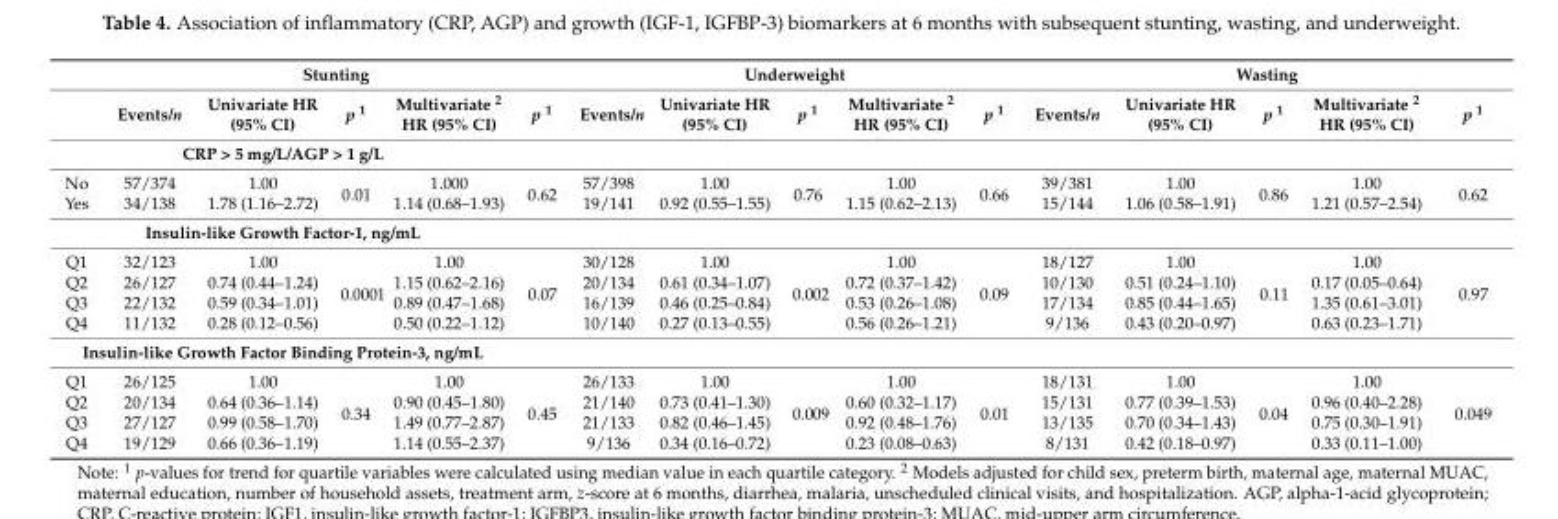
<table><thead><tr><td rowspan="2"></td><td colspan="5">Stunting</td><td colspan="5">Underweight</td><td colspan="5">Wasting</td></tr><tr><td>Events/n</td><td>Univariate HR (95% CI)</td><td>p <sup>1</sup></td><td>Multivariate <sup>2</sup> HR (95% CI)</td><td>p <sup>1</sup></td><td>Events/n</td><td>Univariate HR (95% CI)</td><td>p <sup>1</sup></td><td>Multivariate <sup>2</sup> HR (95% CI)</td><td>p <sup>1</sup></td><td>Events/n</td><td>Univariate HR (95% CI)</td><td>p <sup>1</sup></td><td>Multivariate <sup>2</sup> HR (95% CI)</td><td>p <sup>1</sup></td></tr></thead><tbody><tr><td colspan="16">CRP &gt; 5 mg/L/AGP &gt; 1 g/L</td></tr><tr><td>No</td><td>57/374</td><td>1.00</td><td rowspan="2">0.01</td><td>1.000</td><td rowspan="2">0.62</td><td>57/398</td><td>1.00</td><td rowspan="2">0.76</td><td>1.00</td><td rowspan="2">0.66</td><td>39/381</td><td>1.00</td><td rowspan="2">0.86</td><td>1.00</td><td rowspan="2">0.62</td></tr><tr><td>Yes</td><td>34/138</td><td>1.78 (1.16–2.72)</td><td>1.14 (0.68–1.93)</td><td>19/141</td><td>0.92 (0.55–1.55)</td><td>1.15 (0.62–2.13)</td><td>15/144</td><td>1.06 (0.58–1.91)</td><td>1.21 (0.57–2.54)</td></tr><tr><td colspan="16">Insulin-like Growth Factor-1, ng/mL</td></tr><tr><td>Q1</td><td>32/123</td><td>1.00</td><td rowspan="4">0.0001</td><td>1.00</td><td rowspan="4">0.07</td><td>30/128</td><td>1.00</td><td rowspan="4">0.002</td><td>1.00</td><td rowspan="4">0.09</td><td>18/127</td><td>1.00</td><td rowspan="4">0.11</td><td>1.00</td><td rowspan="4">0.97</td></tr><tr><td>Q2</td><td>26/127</td><td>0.74 (0.44–1.24)</td><td>1.15 (0.62–2.16)</td><td>20/134</td><td>0.61 (0.34–1.07)</td><td>0.72 (0.37–1.42)</td><td>10/130</td><td>0.51 (0.24–1.10)</td><td>0.17 (0.05–0.64)</td></tr><tr><td>Q3</td><td>22/132</td><td>0.59 (0.34–1.01)</td><td>0.89 (0.47–1.68)</td><td>16/139</td><td>0.46 (0.25–0.84)</td><td>0.53 (0.26–1.08)</td><td>17/134</td><td>0.85 (0.44–1.65)</td><td>1.35 (0.61–3.01)</td></tr><tr><td>Q4</td><td>11/132</td><td>0.28 (0.12–0.56)</td><td>0.50 (0.22–1.12)</td><td>10/140</td><td>0.27 (0.13–0.55)</td><td>0.56 (0.26–1.21)</td><td>9/136</td><td>0.43 (0.20–0.97)</td><td>0.63 (0.23–1.71)</td></tr><tr><td colspan="16">Insulin-like Growth Factor Binding Protein-3, ng/mL</td></tr><tr><td>Q1</td><td>26/125</td><td>1.00</td><td rowspan="4">0.34</td><td>1.00</td><td rowspan="4">0.45</td><td>26/133</td><td>1.00</td><td rowspan="4">0.009</td><td>1.00</td><td rowspan="4">0.01</td><td>18/131</td><td>1.00</td><td rowspan="4">0.04</td><td>1.00</td><td rowspan="4">0.049</td></tr><tr><td>Q2</td><td>20/134</td><td>0.64 (0.36–1.14)</td><td>0.90 (0.45–1.80)</td><td>21/140</td><td>0.73 (0.41–1.30)</td><td>0.60 (0.32–1.17)</td><td>15/131</td><td>0.77 (0.39–1.53)</td><td>0.96 (0.40–2.28)</td></tr><tr><td>Q3</td><td>27/127</td><td>0.99 (0.58–1.70)</td><td>1.49 (0.77–2.87)</td><td>21/133</td><td>0.82 (0.46–1.45)</td><td>0.92 (0.48–1.76)</td><td>13/135</td><td>0.70 (0.34–1.43)</td><td>0.75 (0.30–1.91)</td></tr><tr><td>Q4</td><td>19/129</td><td>0.66 (0.36–1.19)</td><td>1.14 (0.55–2.37)</td><td>9/136</td><td>0.34 (0.16–0.72)</td><td>0.23 (0.08–0.63)</td><td>8/131</td><td>0.42 (0.18–0.97)</td><td>0.33 (0.11–1.00)</td></tr></tbody></table>